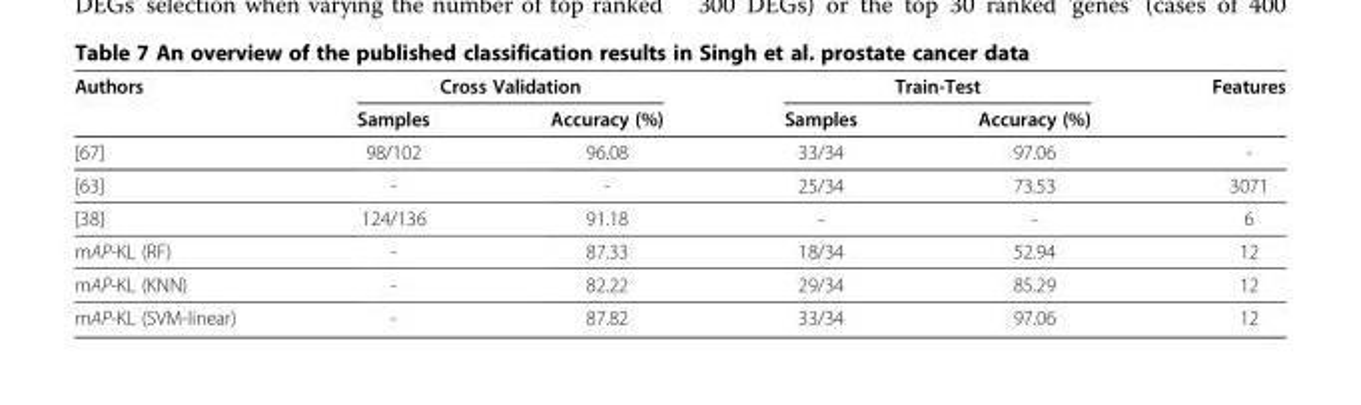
<table><thead><tr><td rowspan="2">Authors</td><td colspan="2">Cross Validation</td><td colspan="2">Train-Test</td><td rowspan="2">Features</td></tr><tr><td>Samples</td><td>Accuracy (%)</td><td>Samples</td><td>Accuracy (%)</td></tr></thead><tbody><tr><td>[67]</td><td>98/102</td><td>96.08</td><td>33/34</td><td>97.06</td><td>-</td></tr><tr><td>[63]</td><td>-</td><td>-</td><td>25/34</td><td>73.53</td><td>3071</td></tr><tr><td>[38]</td><td>124/136</td><td>91.18</td><td>-</td><td>-</td><td>6</td></tr><tr><td>mAP-KL (RF)</td><td>-</td><td>87.33</td><td>18/34</td><td>52.94</td><td>12</td></tr><tr><td>mAP-KL (KNN)</td><td>-</td><td>82.22</td><td>29/34</td><td>85.29</td><td>12</td></tr><tr><td>mAP-KL (SVM-linear)</td><td>-</td><td>87.82</td><td>33/34</td><td>97.06</td><td>12</td></tr></tbody></table>